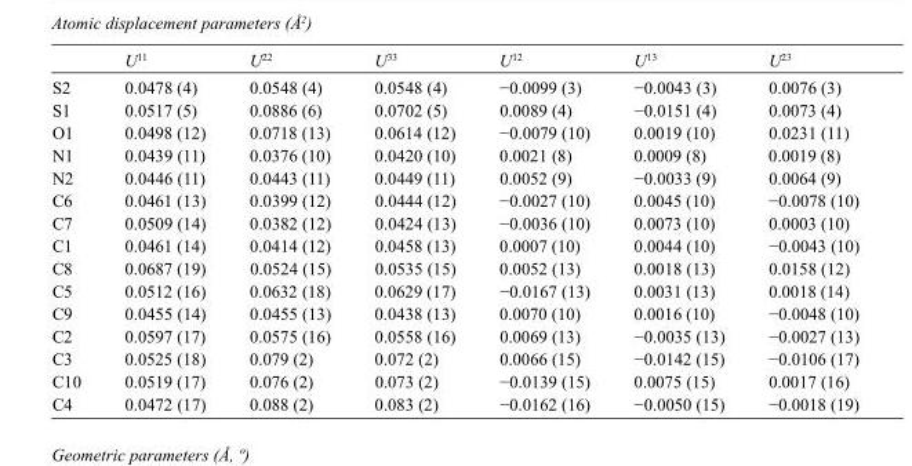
<table><thead><tr><td></td><td>U<sup>11</sup></td><td>U<sup>22</sup></td><td>U<sup>33</sup></td><td>U<sup>12</sup></td><td>U<sup>13</sup></td><td>U<sup>23</sup></td></tr></thead><tbody><tr><td>S2</td><td>0.0478 (4)</td><td>0.0548 (4)</td><td>0.0548 (4)</td><td>−0.0099 (3)</td><td>−0.0043 (3)</td><td>0.0076 (3)</td></tr><tr><td>S1</td><td>0.0517 (5)</td><td>0.0886 (6)</td><td>0.0702 (5)</td><td>0.0089 (4)</td><td>−0.0151 (4)</td><td>0.0073 (4)</td></tr><tr><td>O1</td><td>0.0498 (12)</td><td>0.0718 (13)</td><td>0.0614 (12)</td><td>−0.0079 (10)</td><td>0.0019 (10)</td><td>0.0231 (11)</td></tr><tr><td>N1</td><td>0.0439 (11)</td><td>0.0376 (10)</td><td>0.0420 (10)</td><td>0.0021 (8)</td><td>0.0009 (8)</td><td>0.0019 (8)</td></tr><tr><td>N2</td><td>0.0446 (11)</td><td>0.0443 (11)</td><td>0.0449 (11)</td><td>0.0052 (9)</td><td>−0.0033 (9)</td><td>0.0064 (9)</td></tr><tr><td>C6</td><td>0.0461 (13)</td><td>0.0399 (12)</td><td>0.0444 (12)</td><td>−0.0027 (10)</td><td>0.0045 (10)</td><td>−0.0078 (10)</td></tr><tr><td>C7</td><td>0.0509 (14)</td><td>0.0382 (12)</td><td>0.0424 (13)</td><td>−0.0036 (10)</td><td>0.0073 (10)</td><td>0.0003 (10)</td></tr><tr><td>C1</td><td>0.0461 (14)</td><td>0.0414 (12)</td><td>0.0458 (13)</td><td>0.0007 (10)</td><td>0.0044 (10)</td><td>−0.0043 (10)</td></tr><tr><td>C8</td><td>0.0687 (19)</td><td>0.0524 (15)</td><td>0.0535 (15)</td><td>0.0052 (13)</td><td>0.0018 (13)</td><td>0.0158 (12)</td></tr><tr><td>C5</td><td>0.0512 (16)</td><td>0.0632 (18)</td><td>0.0629 (17)</td><td>−0.0167 (13)</td><td>0.0031 (13)</td><td>0.0018 (14)</td></tr><tr><td>C9</td><td>0.0455 (14)</td><td>0.0455 (13)</td><td>0.0438 (13)</td><td>0.0070 (10)</td><td>0.0016 (10)</td><td>−0.0048 (10)</td></tr><tr><td>C2</td><td>0.0597 (17)</td><td>0.0575 (16)</td><td>0.0558 (16)</td><td>0.0069 (13)</td><td>−0.0035 (13)</td><td>−0.0027 (13)</td></tr><tr><td>C3</td><td>0.0525 (18)</td><td>0.079 (2)</td><td>0.072 (2)</td><td>0.0066 (15)</td><td>−0.0142 (15)</td><td>−0.0106 (17)</td></tr><tr><td>C10</td><td>0.0519 (17)</td><td>0.076 (2)</td><td>0.073 (2)</td><td>−0.0139 (15)</td><td>0.0075 (15)</td><td>0.0017 (16)</td></tr><tr><td>C4</td><td>0.0472 (17)</td><td>0.088 (2)</td><td>0.083 (2)</td><td>−0.0162 (16)</td><td>−0.0050 (15)</td><td>−0.0018 (19)</td></tr></tbody></table>